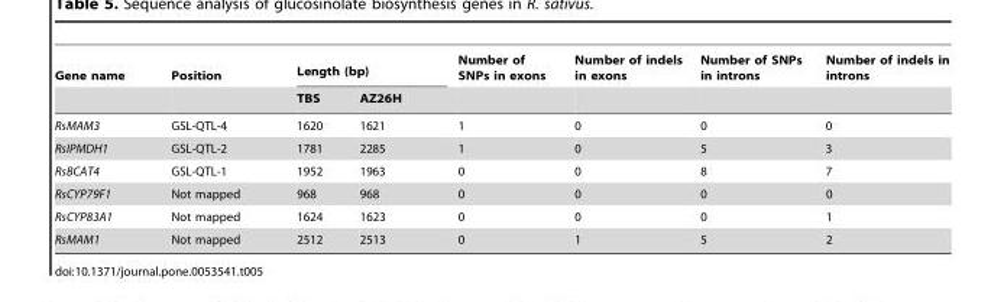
<table><thead><tr><td rowspan="2">Gene name</td><td rowspan="2">Position</td><td colspan="2">Length (bp)</td><td rowspan="2">Number of SNPs in exons</td><td rowspan="2">Number of indels in exons</td><td rowspan="2">Number of SNPs in introns</td><td rowspan="2">Number of indels in introns</td></tr><tr><td>TBS</td><td>AZ26H</td></tr></thead><tbody><tr><td>RsMAM3</td><td>GSL-QTL-4</td><td>1620</td><td>1621</td><td>1</td><td>0</td><td>0</td><td>0</td></tr><tr><td>RsIPMDH1</td><td>GSL-QTL-2</td><td>1781</td><td>2285</td><td>1</td><td>0</td><td>5</td><td>3</td></tr><tr><td>RsBCAT4</td><td>GSL-QTL-1</td><td>1952</td><td>1963</td><td>0</td><td>0</td><td>8</td><td>7</td></tr><tr><td>RsCYP79F1</td><td>Not mapped</td><td>968</td><td>968</td><td>0</td><td>0</td><td>0</td><td>0</td></tr><tr><td>RsCYP83A1</td><td>Not mapped</td><td>1624</td><td>1623</td><td>0</td><td>0</td><td>0</td><td>1</td></tr><tr><td>RsMAM1</td><td>Not mapped</td><td>2512</td><td>2513</td><td>0</td><td>1</td><td>5</td><td>2</td></tr></tbody></table>